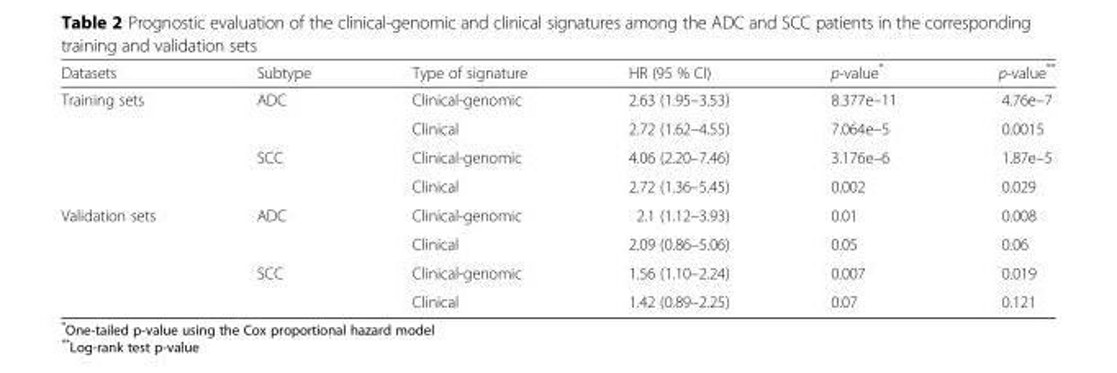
<table><thead><tr><td>Datasets</td><td>Subtype</td><td>Type of signature</td><td>HR (95 % CI)</td><td>p-value*</td><td>p-value**</td></tr></thead><tbody><tr><td rowspan="4">Training sets</td><td rowspan="2">ADC</td><td>Clinical-genomic</td><td>2.63 (1.95–3.53)</td><td>8.377e–11</td><td>4.76e–7</td></tr><tr><td>Clinical</td><td>2.72 (1.62–4.55)</td><td>7.064e–5</td><td>0.0015</td></tr><tr><td rowspan="2">SCC</td><td>Clinical-genomic</td><td>4.06 (2.20–7.46)</td><td>3.176e–6</td><td>1.87e–5</td></tr><tr><td>Clinical</td><td>2.72 (1.36–5.45)</td><td>0.002</td><td>0.029</td></tr><tr><td rowspan="4">Validation sets</td><td rowspan="2">ADC</td><td>Clinical-genomic</td><td>2.1 (1.12–3.93)</td><td>0.01</td><td>0.008</td></tr><tr><td>Clinical</td><td>2.09 (0.86–5.06)</td><td>0.05</td><td>0.06</td></tr><tr><td rowspan="2">SCC</td><td>Clinical-genomic</td><td>1.56 (1.10–2.24)</td><td>0.007</td><td>0.019</td></tr><tr><td>Clinical</td><td>1.42 (0.89–2.25)</td><td>0.07</td><td>0.121</td></tr></tbody></table>